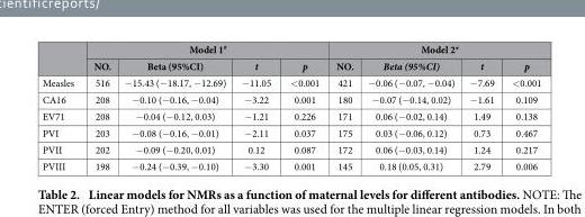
<table><thead><tr><td rowspan="2"></td><td colspan="4">Model 1<sup>#</sup></td><td colspan="4">Model 2*</td></tr><tr><td>NO.</td><td>Beta (95%CI)</td><td>t</td><td>p</td><td>NO.</td><td>Beta (95%CI)</td><td>t</td><td>p</td></tr></thead><tbody><tr><td>Measles</td><td>516</td><td>− 15.43 (− 18.17, − 12.69)</td><td>− 11.05</td><td>&lt; 0.001</td><td>421</td><td>− 0.06 (− 0.07, − 0.04)</td><td>− 7.69</td><td>&lt; 0.001</td></tr><tr><td>CA16</td><td>208</td><td>− 0.10 (− 0.16, − 0.04)</td><td>− 3.22</td><td>0.001</td><td>180</td><td>− 0.07 (− 0.14, 0.02)</td><td>− 1.61</td><td>0.109</td></tr><tr><td>EV71</td><td>208</td><td>− 0.04 (− 0.12, 0.03)</td><td>− 1.21</td><td>0.226</td><td>171</td><td>0.06 (− 0.02, 0.14)</td><td>1.49</td><td>0.138</td></tr><tr><td>PVI</td><td>203</td><td>− 0.08 (− 0.16, − 0.01)</td><td>− 2.11</td><td>0.037</td><td>175</td><td>0.03 (− 0.06, 0.12)</td><td>0.73</td><td>0.467</td></tr><tr><td>PVII</td><td>202</td><td>− 0.09 (− 0.20, 0.01)</td><td>0.12</td><td>0.087</td><td>172</td><td>0.06 (− 0.03, 0.14)</td><td>1.24</td><td>0.217</td></tr><tr><td>PVIII</td><td>198</td><td>− 0.24 (− 0.39, − 0.10)</td><td>− 3.30</td><td>0.001</td><td>145</td><td>0.18 (0.05, 0.31)</td><td>2.79</td><td>0.006</td></tr></tbody></table>